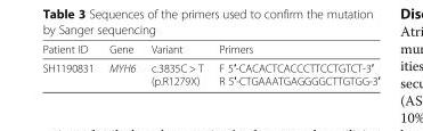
<table><thead><tr><td>Patient ID</td><td>Gene</td><td>Variant</td><td>Primers</td></tr></thead><tbody><tr><td>SH1190831</td><td>MYH6</td><td>c.3835C &gt; T (p.R1279X)</td><td>F 5′-CACACTCACCCTTCCTGTCT-3′ R 5′-CTGAAATGAGGGGCTTGTGG-3′</td></tr></tbody></table>